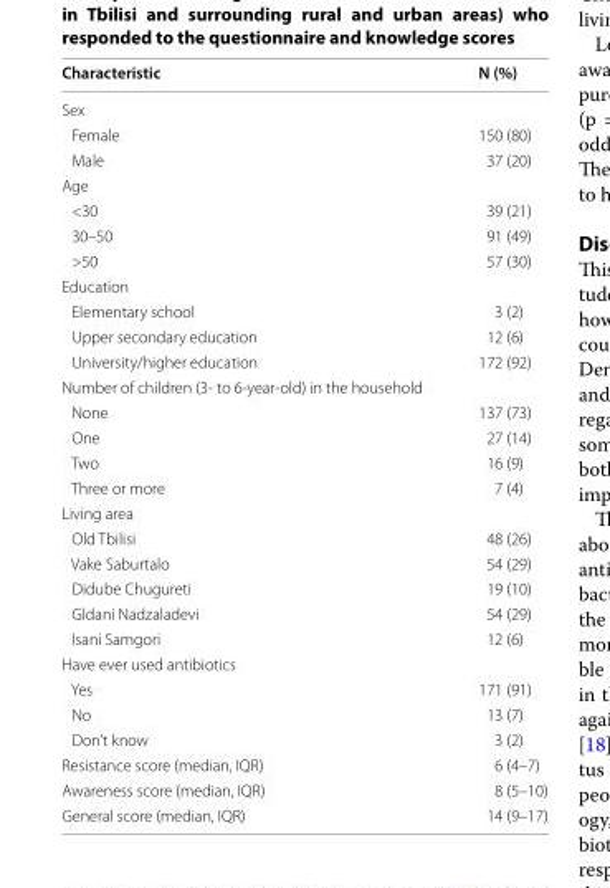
<table><thead><tr><td>Characteristic</td><td>N (%)</td></tr></thead><tbody><tr><td colspan="2">Sex</td></tr><tr><td>Female</td><td>150 (80)</td></tr><tr><td>Male</td><td>37 (20)</td></tr><tr><td colspan="2">Age</td></tr><tr><td>&lt;30</td><td>39 (21)</td></tr><tr><td>30–50</td><td>91 (49)</td></tr><tr><td>&gt;50</td><td>57 (30)</td></tr><tr><td colspan="2">Education</td></tr><tr><td>Elementary school</td><td>3 (2)</td></tr><tr><td>Upper secondary education</td><td>12 (6)</td></tr><tr><td>University/higher education</td><td>172 (92)</td></tr><tr><td colspan="2">Number of children (3- to 6-year-old) in the household</td></tr><tr><td>None</td><td>137 (73)</td></tr><tr><td>One</td><td>27 (14)</td></tr><tr><td>Two</td><td>16 (9)</td></tr><tr><td>Three or more</td><td>7 (4)</td></tr><tr><td colspan="2">Living area</td></tr><tr><td>Old Tbilisi</td><td>48 (26)</td></tr><tr><td>Vake Saburtalo</td><td>54 (29)</td></tr><tr><td>Didube Chugureti</td><td>19 (10)</td></tr><tr><td>Gldani Nadzaladevi</td><td>54 (29)</td></tr><tr><td>Isani Samgori</td><td>12 (6)</td></tr><tr><td colspan="2">Have ever used antibiotics</td></tr><tr><td>Yes</td><td>171 (91)</td></tr><tr><td>No</td><td>13 (7)</td></tr><tr><td>Don’t know</td><td>3 (2)</td></tr><tr><td>Resistance score (median, IQR)</td><td>6 (4–7)</td></tr><tr><td>Awareness score (median, IQR)</td><td>8 (5–10)</td></tr><tr><td>General score (median, IQR)</td><td>14 (9–17)</td></tr></tbody></table>